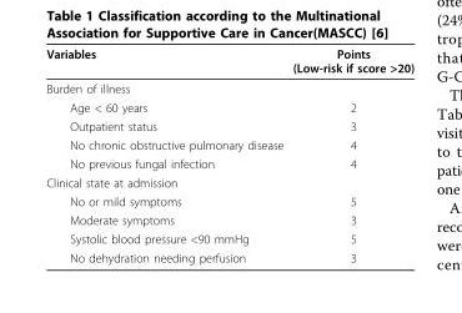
<table><thead><tr><td>Variables</td><td>Points (Low-risk if score &gt;20)</td></tr></thead><tbody><tr><td colspan="2">Burden of illness</td></tr><tr><td>Age &lt; 60 years</td><td>2</td></tr><tr><td>Outpatient status</td><td>3</td></tr><tr><td>No chronic obstructive pulmonary disease</td><td>4</td></tr><tr><td>No previous fungal infection</td><td>4</td></tr><tr><td colspan="2">Clinical state at admission</td></tr><tr><td>No or mild symptoms</td><td>5</td></tr><tr><td>Moderate symptoms</td><td>3</td></tr><tr><td>Systolic blood pressure &lt;90 mmHg</td><td>5</td></tr><tr><td>No dehydration needing perfusion</td><td>3</td></tr></tbody></table>